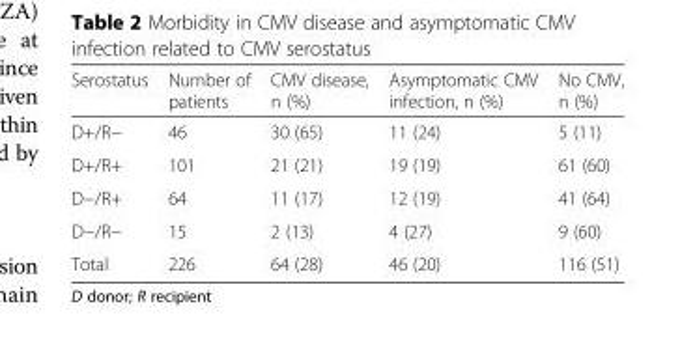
<table><thead><tr><td>Serostatus</td><td>Number of patients</td><td>CMV disease, n (%)</td><td>Asymptomatic CMV infection, n (%)</td><td>No CMV, n (%)</td></tr></thead><tbody><tr><td>D+/R−</td><td>46</td><td>30 (65)</td><td>11 (24)</td><td>5 (11)</td></tr><tr><td>D+/R+</td><td>101</td><td>21 (21)</td><td>19 (19)</td><td>61 (60)</td></tr><tr><td>D−/R+</td><td>64</td><td>11 (17)</td><td>12 (19)</td><td>41 (64)</td></tr><tr><td>D−/R−</td><td>15</td><td>2 (13)</td><td>4 (27)</td><td>9 (60)</td></tr><tr><td>Total</td><td>226</td><td>64 (28)</td><td>46 (20)</td><td>116 (51)</td></tr></tbody></table>